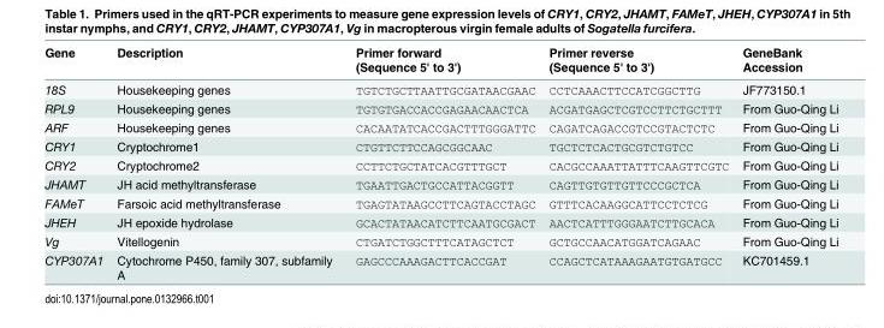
<table><thead><tr><td>Gene</td><td>Description</td><td>Primer forward (Sequence 5&#x27; to 3&#x27;)</td><td>Primer reverse (Sequence 5&#x27; to 3&#x27;)</td><td>GeneBank Accession</td></tr></thead><tbody><tr><td>18S</td><td>Housekeeping genes</td><td>TGTCTGCTTAATTGCGATAACGAAC</td><td>CCTCAAACTTCCATCGGCTTG</td><td>JF773150.1</td></tr><tr><td>RPL9</td><td>Housekeeping genes</td><td>TGTGTGACCACCGAGAACAACTCA</td><td>ACGATGAGCTCGTCCTTCTGCTTT</td><td>From Guo-Qing Li</td></tr><tr><td>ARF</td><td>Housekeeping genes</td><td>CACAATATCACCGACTTTGGGATTC</td><td>CAGATCAGACCGTCCGTACTCTC</td><td>From Guo-Qing Li</td></tr><tr><td>CRY1</td><td>Cryptochrome1</td><td>CTGTTCTTCCAGCGGCAAC</td><td>TGCTCTCACTGCGTCTGTCC</td><td>From Guo-Qing Li</td></tr><tr><td>CRY2</td><td>Cryptochrome2</td><td>CCTTCTGCTATCACGTTTGCT</td><td>CACGCCAAATTATTTCAAGTTCGTC</td><td>From Guo-Qing Li</td></tr><tr><td>JHAMT</td><td>JH acid methyltransferase</td><td>TGAATTGACTGCCATTACGGTT</td><td>CAGTTGTGTTGTTCCCGCTCA</td><td>From Guo-Qing Li</td></tr><tr><td>FAMeT</td><td>Farsoic acid methyltransferase</td><td>TGAGTATAAGCCTTCAGTACCTAGC</td><td>GTTTCACAAGGCATTCCTCTCG</td><td>From Guo-Qing Li</td></tr><tr><td>JHEH</td><td>JH epoxide hydrolase</td><td>GCACTATAACATCTTCAATGCGACT</td><td>AACTCATTTGGGAATCTTGCACA</td><td>From Guo-Qing Li</td></tr><tr><td>Vg</td><td>Vitellogenin</td><td>CTGATCTGGCTTTCATAGCTCT</td><td>GCTGCCAACATGGATCAGAAC</td><td>From Guo-Qing Li</td></tr><tr><td>CYP307A1</td><td>Cytochrome P450, family 307, subfamily A</td><td>GAGCCCAAAGACTTCACCGAT</td><td>CCAGCTCATAAAGAATGTGATGCC</td><td>KC701459.1</td></tr></tbody></table>